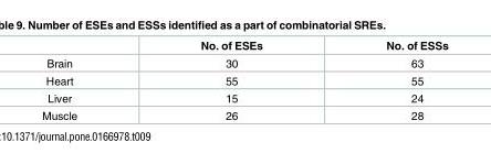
<table><thead><tr><td></td><td>No. of ESEs</td><td>No. of ESSs</td></tr></thead><tbody><tr><td>Brain</td><td>30</td><td>63</td></tr><tr><td>Heart</td><td>55</td><td>55</td></tr><tr><td>Liver</td><td>15</td><td>24</td></tr><tr><td>Muscle</td><td>26</td><td>28</td></tr></tbody></table>